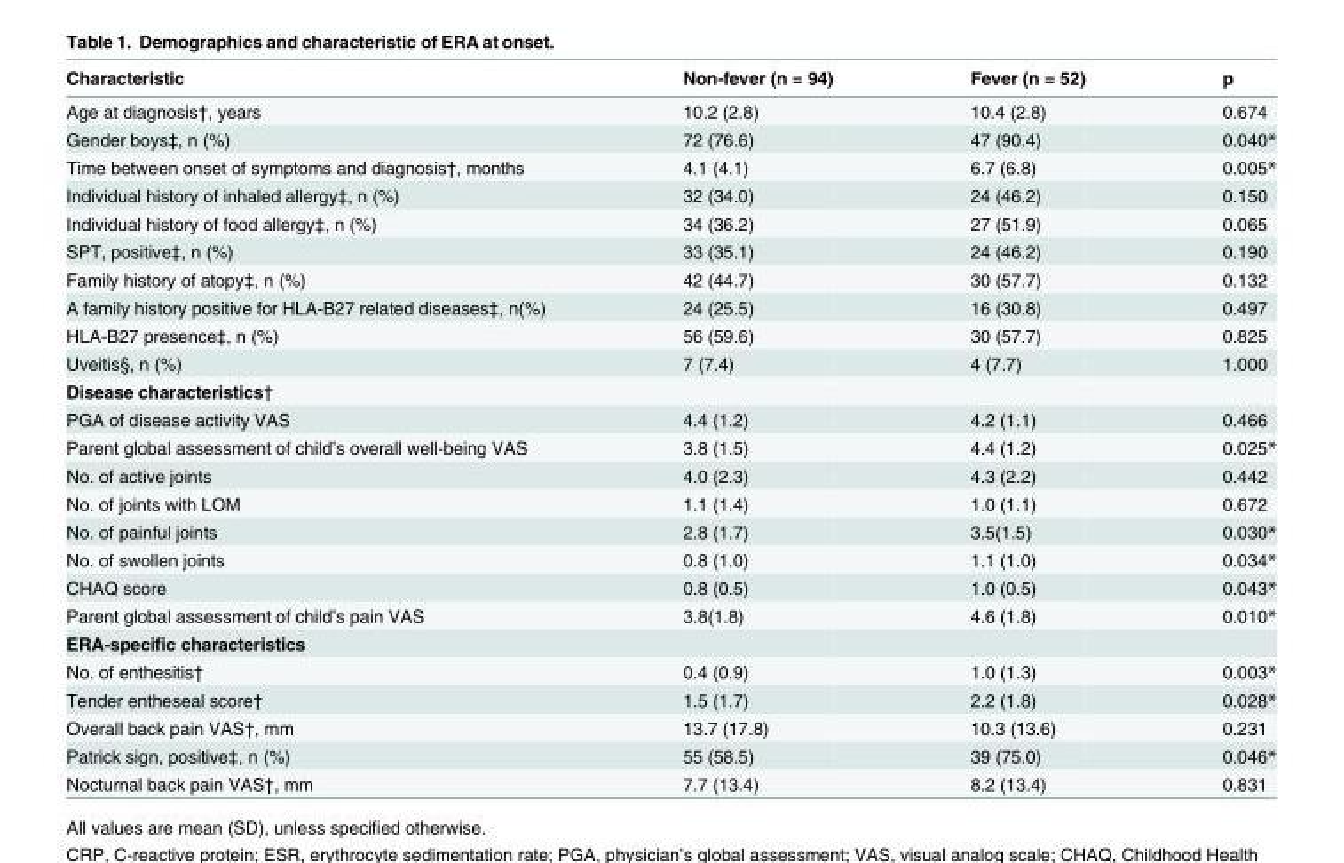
<table><thead><tr><td>Characteristic</td><td>Non-fever (n = 94)</td><td>Fever (n = 52)</td><td>p</td></tr></thead><tbody><tr><td>Age at diagnosis†, years</td><td>10.2 (2.8)</td><td>10.4 (2.8)</td><td>0.674</td></tr><tr><td>Gender boys‡, n (%)</td><td>72 (76.6)</td><td>47 (90.4)</td><td>0.040*</td></tr><tr><td>Time between onset of symptoms and diagnosis†, months</td><td>4.1 (4.1)</td><td>6.7 (6.8)</td><td>0.005*</td></tr><tr><td>Individual history of inhaled allergy‡, n (%)</td><td>32 (34.0)</td><td>24 (46.2)</td><td>0.150</td></tr><tr><td>Individual history of food allergy‡, n (%)</td><td>34 (36.2)</td><td>27 (51.9)</td><td>0.065</td></tr><tr><td>SPT, positive‡, n (%)</td><td>33 (35.1)</td><td>24 (46.2)</td><td>0.190</td></tr><tr><td>Family history of atopy‡, n (%)</td><td>42 (44.7)</td><td>30 (57.7)</td><td>0.132</td></tr><tr><td>A family history positive for HLA-B27 related diseases‡, n(%)</td><td>24 (25.5)</td><td>16 (30.8)</td><td>0.497</td></tr><tr><td>HLA-B27 presence‡, n (%)</td><td>56 (59.6)</td><td>30 (57.7)</td><td>0.825</td></tr><tr><td>Uveitis§, n (%)</td><td>7 (7.4)</td><td>4 (7.7)</td><td>1.000</td></tr><tr><td colspan="4">Disease characteristics†</td></tr><tr><td>PGA of disease activity VAS</td><td>4.4 (1.2)</td><td>4.2 (1.1)</td><td>0.466</td></tr><tr><td>Parent global assessment of child’s overall well-being VAS</td><td>3.8 (1.5)</td><td>4.4 (1.2)</td><td>0.025*</td></tr><tr><td>No. of active joints</td><td>4.0 (2.3)</td><td>4.3 (2.2)</td><td>0.442</td></tr><tr><td>No. of joints with LOM</td><td>1.1 (1.4)</td><td>1.0 (1.1)</td><td>0.672</td></tr><tr><td>No. of painful joints</td><td>2.8 (1.7)</td><td>3.5(1.5)</td><td>0.030*</td></tr><tr><td>No. of swollen joints</td><td>0.8 (1.0)</td><td>1.1 (1.0)</td><td>0.034*</td></tr><tr><td>CHAQ score</td><td>0.8 (0.5)</td><td>1.0 (0.5)</td><td>0.043*</td></tr><tr><td>Parent global assessment of child’s pain VAS</td><td>3.8(1.8)</td><td>4.6 (1.8)</td><td>0.010*</td></tr><tr><td colspan="4">ERA-specific characteristics</td></tr><tr><td>No. of enthesitis†</td><td>0.4 (0.9)</td><td>1.0 (1.3)</td><td>0.003*</td></tr><tr><td>Tender entheseal score†</td><td>1.5 (1.7)</td><td>2.2 (1.8)</td><td>0.028*</td></tr><tr><td>Overall back pain VAS†, mm</td><td>13.7 (17.8)</td><td>10.3 (13.6)</td><td>0.231</td></tr><tr><td>Patrick sign, positive‡, n (%)</td><td>55 (58.5)</td><td>39 (75.0)</td><td>0.046*</td></tr><tr><td>Nocturnal back pain VAS†, mm</td><td>7.7 (13.4)</td><td>8.2 (13.4)</td><td>0.831</td></tr></tbody></table>